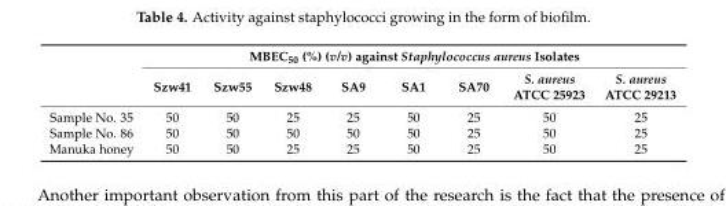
<table><thead><tr><td rowspan="2"></td><td colspan="8">MBEC<sub>50</sub> (%) (v/v) against Staphylococcus aureus Isolates</td></tr><tr><td>Szw41</td><td>Szw55</td><td>Szw48</td><td>SA9</td><td>SA1</td><td>SA70</td><td>S. aureus ATCC 25923</td><td>S. aureus ATCC 29213</td></tr></thead><tbody><tr><td>Sample No. 35</td><td>50</td><td>50</td><td>25</td><td>25</td><td>50</td><td>25</td><td>50</td><td>25</td></tr><tr><td>Sample No. 86</td><td>50</td><td>50</td><td>50</td><td>50</td><td>50</td><td>25</td><td>50</td><td>25</td></tr><tr><td>Manuka honey</td><td>50</td><td>50</td><td>25</td><td>25</td><td>50</td><td>25</td><td>50</td><td>25</td></tr></tbody></table>